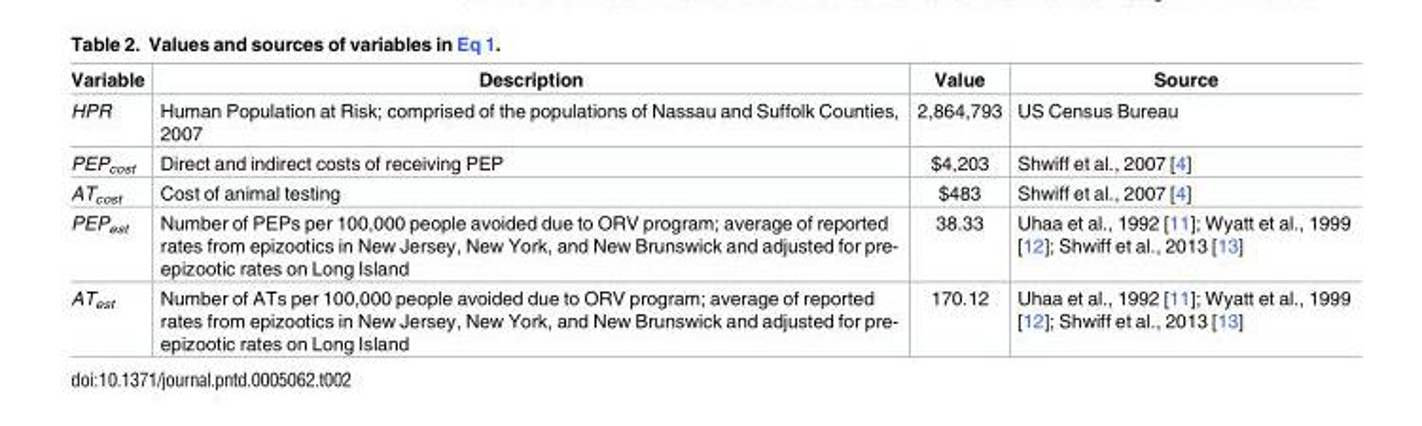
<table><thead><tr><td>Variable</td><td>Description</td><td>Value</td><td>Source</td></tr></thead><tbody><tr><td>HPR</td><td>Human Population at Risk; comprised of the populations of Nassau and Suffolk Counties, 2007</td><td>2,864,793</td><td>US Census Bureau</td></tr><tr><td>PEP<sub>cost</sub></td><td>Direct and indirect costs of receiving PEP</td><td>$4,203</td><td>Shwiff et al., 2007 [4]</td></tr><tr><td>AT<sub>cost</sub></td><td>Cost of animal testing</td><td>$483</td><td>Shwiff et al., 2007 [4]</td></tr><tr><td>PEP<sub>est</sub></td><td>Number of PEPs per 100,000 people avoided due to ORV program; average of reported rates from epizootics in New Jersey, New York, and New Brunswick and adjusted for pre- epizootic rates on Long Island</td><td>38.33</td><td>Uhaa et al., 1992 [11]; Wyatt et al., 1999 [12]; Shwiff et al., 2013 [13]</td></tr><tr><td>AT<sub>est</sub></td><td>Number of ATs per 100,000 people avoided due to ORV program; average of reported rates from epizootics in New Jersey, New York, and New Brunswick and adjusted for pre- epizootic rates on Long Island</td><td>170.12</td><td>Uhaa et al., 1992 [11]; Wyatt et al., 1999 [12]; Shwiff et al., 2013 [13]</td></tr></tbody></table>